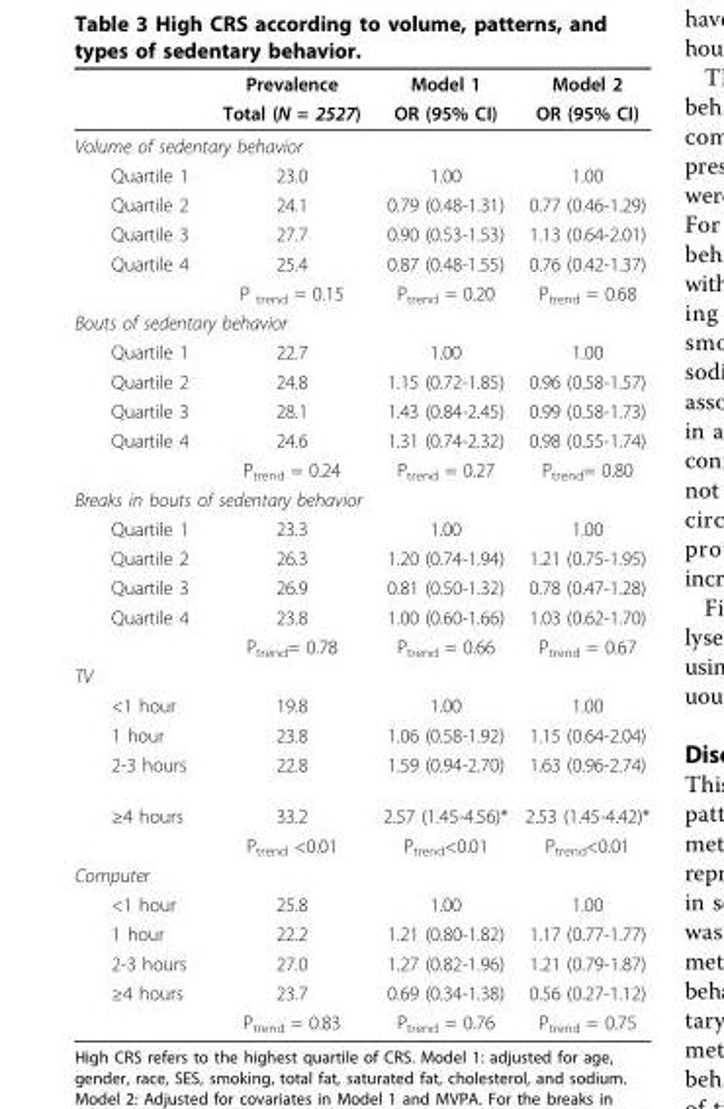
<table><thead><tr><td rowspan="2"></td><td rowspan="2">Prevalence Total (N = 2527)</td><td rowspan="2">Model 1 OR (95% CI)</td><td rowspan="2">Model 2 OR (95% CI)</td></tr><tr></tr></thead><tbody><tr><td colspan="4">Volume of sedentary behavior</td></tr><tr><td>Quartile 1</td><td>23.0</td><td>1.00</td><td>1.00</td></tr><tr><td>Quartile 2</td><td>24.1</td><td>0.79 (0.48-1.31)</td><td>0.77 (0.46-1.29)</td></tr><tr><td>Quartile 3</td><td>27.7</td><td>0.90 (0.53-1.53)</td><td>1.13 (0.64-2.01)</td></tr><tr><td rowspan="2">Quartile 4</td><td>25.4</td><td>0.87 (0.48-1.55)</td><td>0.76 (0.42-1.37)</td></tr><tr><td>P <sub>trend</sub> = 0.15</td><td>P<sub>trend</sub> = 0.20</td><td>P<sub>trend</sub> = 0.68</td></tr><tr><td colspan="4">Bouts of sedentary behavior</td></tr><tr><td>Quartile 1</td><td>22.7</td><td>1.00</td><td>1.00</td></tr><tr><td>Quartile 2</td><td>24.8</td><td>1.15 (0.72-1.85)</td><td>0.96 (0.58-1.57)</td></tr><tr><td>Quartile 3</td><td>28.1</td><td>1.43 (0.84-2.45)</td><td>0.99 (0.58-1.73)</td></tr><tr><td rowspan="2">Quartile 4</td><td>24.6</td><td>1.31 (0.74-2.32)</td><td>0.98 (0.55-1.74)</td></tr><tr><td>P<sub>trend</sub> = 0.24</td><td>P<sub>trend</sub> = 0.27</td><td>P<sub>trend</sub>= 0.80</td></tr><tr><td colspan="4">Breaks in bouts of sedentary behavior</td></tr><tr><td>Quartile 1</td><td>23.3</td><td>1.00</td><td>1.00</td></tr><tr><td>Quartile 2</td><td>26.3</td><td>1.20 (0.74-1.94)</td><td>1.21 (0.75-1.95)</td></tr><tr><td>Quartile 3</td><td>26.9</td><td>0.81 (0.50-1.32)</td><td>0.78 (0.47-1.28)</td></tr><tr><td rowspan="2">Quartile 4</td><td>23.8</td><td>1.00 (0.60-1.66)</td><td>1.03 (0.62-1.70)</td></tr><tr><td>P<sub>trend</sub>= 0.78</td><td>P<sub>trend</sub> = 0.66</td><td>P<sub>trend</sub> = 0.67</td></tr><tr><td colspan="4">TV</td></tr><tr><td>&lt;1 hour</td><td>19.8</td><td>1.00</td><td>1.00</td></tr><tr><td>1 hour</td><td>23.8</td><td>1.06 (0.58-1.92)</td><td>1.15 (0.64-2.04)</td></tr><tr><td>2-3 hours</td><td>22.8</td><td>1.59 (0.94-2.70)</td><td>1.63 (0.96-2.74)</td></tr><tr><td rowspan="2">≥4 hours</td><td>33.2</td><td>2.57 (1.45-4.56)*</td><td>2.53 (1.45-4.42)*</td></tr><tr><td>P<sub>trend</sub> &lt;0.01</td><td>P<sub>trend</sub>&lt;0.01</td><td>P<sub>trend</sub>&lt;0.01</td></tr><tr><td colspan="4">Computer</td></tr><tr><td>&lt;1 hour</td><td>25.8</td><td>1.00</td><td>1.00</td></tr><tr><td>1 hour</td><td>22.2</td><td>1.21 (0.80-1.82)</td><td>1.17 (0.77-1.77)</td></tr><tr><td>2-3 hours</td><td>27.0</td><td>1.27 (0.82-1.96)</td><td>1.21 (0.79-1.87)</td></tr><tr><td rowspan="2">≥4 hours</td><td>23.7</td><td>0.69 (0.34-1.38)</td><td>0.56 (0.27-1.12)</td></tr><tr><td>P<sub>trend</sub> = 0.83</td><td>P<sub>trend</sub> = 0.76</td><td>P<sub>trend</sub> = 0.75</td></tr></tbody></table>